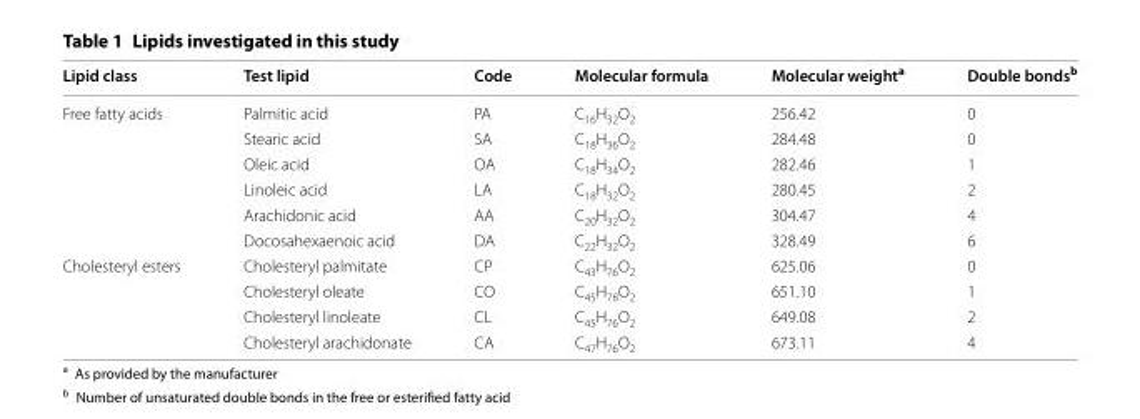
<table><thead><tr><td>Lipid class</td><td>Test lipid</td><td>Code</td><td>Molecular formula</td><td>Molecular weight<sup>a</sup></td><td>Double bonds<sup>b</sup></td></tr></thead><tbody><tr><td rowspan="6">Free fatty acids</td><td>Palmitic acid</td><td>PA</td><td>C<sub>16</sub>H<sub>32</sub>O<sub>2</sub></td><td>256.42</td><td>0</td></tr><tr><td>Stearic acid</td><td>SA</td><td>C<sub>18</sub>H<sub>36</sub>O<sub>2</sub></td><td>284.48</td><td>0</td></tr><tr><td>Oleic acid</td><td>OA</td><td>C<sub>18</sub>H<sub>34</sub>O<sub>2</sub></td><td>282.46</td><td>1</td></tr><tr><td>Linoleic acid</td><td>LA</td><td>C<sub>18</sub>H<sub>32</sub>O<sub>2</sub></td><td>280.45</td><td>2</td></tr><tr><td>Arachidonic acid</td><td>AA</td><td>C<sub>20</sub>H<sub>32</sub>O<sub>2</sub></td><td>304.47</td><td>4</td></tr><tr><td>Docosahexaenoic acid</td><td>DA</td><td>C<sub>22</sub>H<sub>32</sub>O<sub>2</sub></td><td>328.49</td><td>6</td></tr><tr><td rowspan="4">Cholesteryl esters</td><td>Cholesteryl palmitate</td><td>CP</td><td>C<sub>43</sub>H<sub>76</sub>O<sub>2</sub></td><td>625.06</td><td>0</td></tr><tr><td>Cholesteryl oleate</td><td>CO</td><td>C<sub>45</sub>H<sub>78</sub>O<sub>2</sub></td><td>651.10</td><td>1</td></tr><tr><td>Cholesteryl linoleate</td><td>CL</td><td>C<sub>45</sub>H<sub>76</sub>O<sub>2</sub></td><td>649.08</td><td>2</td></tr><tr><td>Cholesteryl arachidonate</td><td>CA</td><td>C<sub>47</sub>H<sub>76</sub>O<sub>2</sub></td><td>673.11</td><td>4</td></tr></tbody></table>